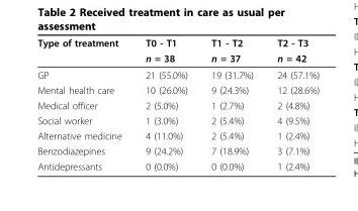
<table><thead><tr><td rowspan="2">Type of treatment</td><td rowspan="2">T0 - T1 n = 38</td><td rowspan="2">T1 - T2 n = 37</td><td rowspan="2">T2 - T3 n = 42</td></tr><tr></tr></thead><tbody><tr><td>GP</td><td>21 (55.0%)</td><td>19 (31.7%)</td><td>24 (57.1%)</td></tr><tr><td>Mental health care</td><td>10 (26.0%)</td><td>9 (24.3%)</td><td>12 (28.6%)</td></tr><tr><td>Medical officer</td><td>2 (5.0%)</td><td>1 (2.7%)</td><td>2 (4.8%)</td></tr><tr><td>Social worker</td><td>1 (3.0%)</td><td>2 (5.4%)</td><td>4 (9.5%)</td></tr><tr><td>Alternative medicine</td><td>4 (11.0%)</td><td>2 (5.4%)</td><td>1 (2.4%)</td></tr><tr><td>Benzodiazepines</td><td>9 (24.2%)</td><td>7 (18.9%)</td><td>3 (7.1%)</td></tr><tr><td>Antidepressants</td><td>0 (0.0%)</td><td>0 (0.0%)</td><td>1 (2.4%)</td></tr></tbody></table>